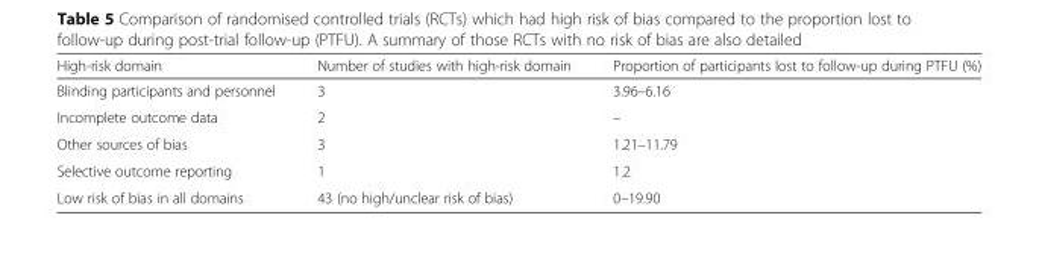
<table><thead><tr><td>High-risk domain</td><td>Number of studies with high-risk domain</td><td>Proportion of participants lost to follow-up during PTFU (%)</td></tr></thead><tbody><tr><td>Blinding participants and personnel</td><td>3</td><td>3.96–6.16</td></tr><tr><td>Incomplete outcome data</td><td>2</td><td>–</td></tr><tr><td>Other sources of bias</td><td>3</td><td>1.21–11.79</td></tr><tr><td>Selective outcome reporting</td><td>1</td><td>1.2</td></tr><tr><td>Low risk of bias in all domains</td><td>43 (no high/unclear risk of bias)</td><td>0–19.90</td></tr></tbody></table>